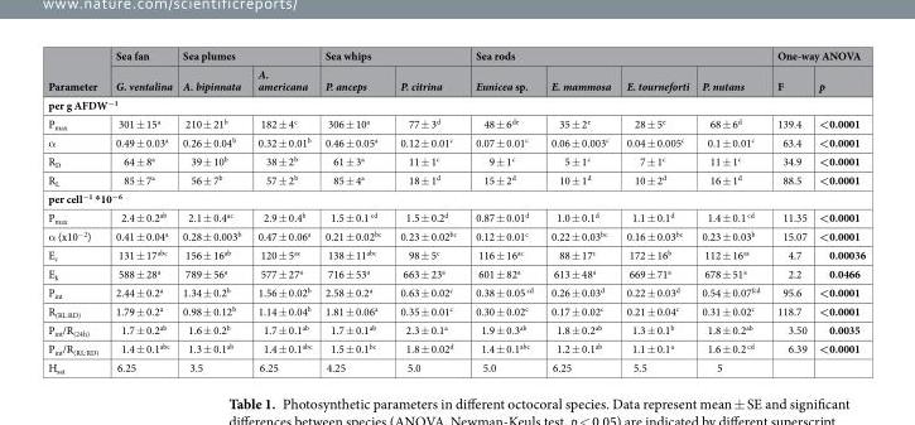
<table><thead><tr><td rowspan="2">Parameter</td><td rowspan="2">Sea fan G. ventalina</td><td colspan="2">Sea plumes</td><td colspan="2">Sea whips</td><td colspan="4">Sea rods</td><td colspan="2">One-way ANOVA</td></tr><tr><td>A. bipinnata</td><td>A. americana</td><td>P. anceps</td><td>P. citrina</td><td>Eunicea sp.</td><td>E. mammosa</td><td>E. tourneforti</td><td>P. nutans</td><td>F</td><td>p</td></tr></thead><tbody><tr><td colspan="12">per g AFDW<sup>−1</sup></td></tr><tr><td>P<sub>max</sub></td><td>301 ± 15<sup>a</sup></td><td>210 ± 21<sup>b</sup></td><td>182 ± 4<sup>c</sup></td><td>306 ± 10<sup>a</sup></td><td>77 ± 3<sup>d</sup></td><td>48 ± 6<sup>de</sup></td><td>35 ± 2<sup>e</sup></td><td>28 ± 5<sup>e</sup></td><td>68 ± 6<sup>d</sup></td><td>139.4</td><td>&lt;0.0001</td></tr><tr><td>α</td><td>0.49 ± 0.03<sup>a</sup></td><td>0.26 ± 0.04<sup>b</sup></td><td>0.32 ± 0.01<sup>b</sup></td><td>0.46 ± 0.05<sup>a</sup></td><td>0.12 ± 0.01<sup>c</sup></td><td>0.07 ± 0.01<sup>c</sup></td><td>0.06 ± 0.003<sup>c</sup></td><td>0.04 ± 0.005<sup>c</sup></td><td>0.1 ± 0.01<sup>c</sup></td><td>63.4</td><td>&lt;0.0001</td></tr><tr><td>R<sub>D</sub></td><td>64 ± 8<sup>a</sup></td><td>39 ± 10<sup>b</sup></td><td>38 ± 2<sup>b</sup></td><td>61 ± 3<sup>a</sup></td><td>11 ± 1<sup>c</sup></td><td>9 ± 1<sup>c</sup></td><td>5 ± 1<sup>c</sup></td><td>7 ± 1<sup>c</sup></td><td>11 ± 1<sup>c</sup></td><td>34.9</td><td>&lt;0.0001</td></tr><tr><td>R<sub>L</sub></td><td>85 ± 7<sup>a</sup></td><td>56 ± 7<sup>b</sup></td><td>57 ± 2<sup>b</sup></td><td>85 ± 4<sup>a</sup></td><td>18 ± 1<sup>d</sup></td><td>15 ± 2<sup>d</sup></td><td>10 ± 1<sup>d</sup></td><td>10 ± 2<sup>d</sup></td><td>16 ± 1<sup>d</sup></td><td>88.5</td><td>&lt;0.0001</td></tr><tr><td colspan="12">per cell<sup>−1</sup> *10<sup>−6</sup></td></tr><tr><td>P<sub>max</sub></td><td>2.4 ± 0.2<sup>ab</sup></td><td>2.1 ± 0.4<sup>ac</sup></td><td>2.9 ± 0.4<sup>b</sup></td><td>1.5 ± 0.1 <sup>cd</sup></td><td>1.5 ± 0.2<sup>d</sup></td><td>0.87 ± 0.01<sup>d</sup></td><td>1.0 ± 0.1<sup>d</sup></td><td>1.1 ± 0.1<sup>d</sup></td><td>1.4 ± 0.1 <sup>cd</sup></td><td>11.35</td><td>&lt;0.0001</td></tr><tr><td>α (x10<sup>−2</sup>)</td><td>0.41 ± 0.04<sup>a</sup></td><td>0.28 ± 0.003<sup>b</sup></td><td>0.47 ± 0.06<sup>a</sup></td><td>0.21 ± 0.02<sup>bc</sup></td><td>0.23 ± 0.02<sup>bc</sup></td><td>0.12 ± 0.01<sup>c</sup></td><td>0.22 ± 0.03<sup>bc</sup></td><td>0.16 ± 0.03<sup>bc</sup></td><td>0.23 ± 0.03<sup>b</sup></td><td>15.07</td><td>&lt;0.0001</td></tr><tr><td>E<sub>c</sub></td><td>131 ± 17<sup>abc</sup></td><td>156 ± 16<sup>ab</sup></td><td>120 ± 5<sup>ac</sup></td><td>138 ± 11<sup>abc</sup></td><td>98 ± 5<sup>c</sup></td><td>116 ± 16<sup>ac</sup></td><td>88 ± 17<sup>c</sup></td><td>172 ± 16<sup>b</sup></td><td>112 ± 16<sup>ac</sup></td><td>4.7</td><td>0.00036</td></tr><tr><td>E<sub>k</sub></td><td>588 ± 28<sup>a</sup></td><td>789 ± 56<sup>a</sup></td><td>577 ± 27<sup>a</sup></td><td>716 ± 53<sup>a</sup></td><td>663 ± 23<sup>a</sup></td><td>601 ± 82<sup>a</sup></td><td>613 ± 48<sup>a</sup></td><td>669 ± 71<sup>a</sup></td><td>678 ± 51<sup>a</sup></td><td>2.2</td><td>0.0466</td></tr><tr><td>P<sub>int</sub></td><td>2.44 ± 0.2<sup>a</sup></td><td>1.34 ± 0.2<sup>b</sup></td><td>1.56 ± 0.02<sup>b</sup></td><td>2.58 ± 0.2<sup>a</sup></td><td>0.63 ± 0.02<sup>c</sup></td><td>0.38 ± 0.05 <sup>cd</sup></td><td>0.26 ± 0.03<sup>d</sup></td><td>0.22 ± 0.03<sup>d</sup></td><td>0.54 ± 0.07<sup>fcd</sup></td><td>95.6</td><td>&lt;0.0001</td></tr><tr><td>R<sub>(RL:RD)</sub></td><td>1.79 ± 0.2<sup>a</sup></td><td>0.98 ± 0.12<sup>b</sup></td><td>1.14 ± 0.04<sup>b</sup></td><td>1.81 ± 0.06<sup>a</sup></td><td>0.35 ± 0.01<sup>c</sup></td><td>0.30 ± 0.02<sup>c</sup></td><td>0.17 ± 0.02<sup>c</sup></td><td>0.21 ± 0.04<sup>c</sup></td><td>0.31 ± 0.02<sup>c</sup></td><td>118.7</td><td>&lt;0.0001</td></tr><tr><td>P<sub>int</sub>/R<sub>(24h)</sub></td><td>1.7 ± 0.2<sup>ab</sup></td><td>1.6 ± 0.2<sup>b</sup></td><td>1.7 ± 0.1<sup>ab</sup></td><td>1.7 ± 0.1<sup>ab</sup></td><td>2.3 ± 0.1<sup>a</sup></td><td>1.9 ± 0.3<sup>ab</sup></td><td>1.8 ± 0.2<sup>ab</sup></td><td>1.3 ± 0.1<sup>b</sup></td><td>1.8 ± 0.2<sup>ab</sup></td><td>3.50</td><td>0.0035</td></tr><tr><td>P<sub>int</sub>/R<sub>(RL:RD)</sub></td><td>1.4 ± 0.1<sup>abc</sup></td><td>1.3 ± 0.1<sup>ab</sup></td><td>1.4 ± 0.1<sup>abc</sup></td><td>1.5 ± 0.1<sup>bc</sup></td><td>1.8 ± 0.02<sup>d</sup></td><td>1.4 ± 0.1<sup>abc</sup></td><td>1.2 ± 0.1<sup>ab</sup></td><td>1.1 ± 0.1<sup>a</sup></td><td>1.6 ± 0.2 <sup>cd</sup></td><td>6.39</td><td>&lt;0.0001</td></tr><tr><td>H<sub>sat</sub></td><td>6.25</td><td>3.5</td><td>6.25</td><td>4.25</td><td>5.0</td><td>5.0</td><td>6.25</td><td>5.5</td><td>5</td><td></td><td></td></tr></tbody></table>